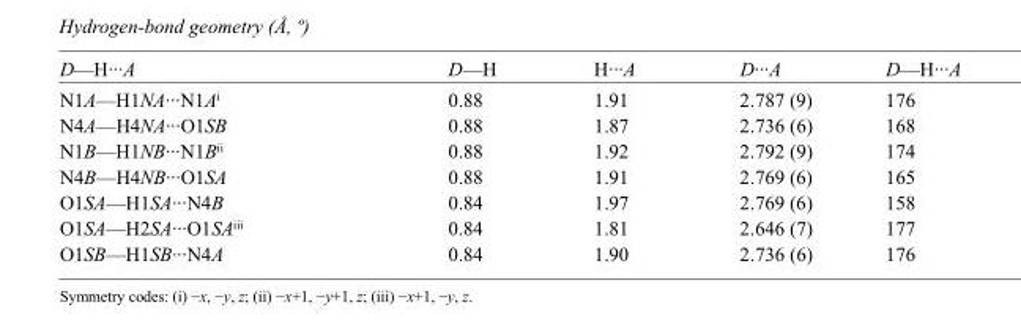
<table><tbody><tr><td>D—H···A</td><td>D—H</td><td>H···A</td><td>D···A</td><td>D—H···A</td></tr><tr><td>N1A—H1NA···N1A<sup>i</sup></td><td>0.88</td><td>1.91</td><td>2.787 (9)</td><td>176</td></tr><tr><td>N4A—H4NA···O1SB</td><td>0.88</td><td>1.87</td><td>2.736 (6)</td><td>168</td></tr><tr><td>N1B—H1NB···N1B<sup>ii</sup></td><td>0.88</td><td>1.92</td><td>2.792 (9)</td><td>174</td></tr><tr><td>N4B—H4NB···O1SA</td><td>0.88</td><td>1.91</td><td>2.769 (6)</td><td>165</td></tr><tr><td>O1SA—H1SA···N4B</td><td>0.84</td><td>1.97</td><td>2.769 (6)</td><td>158</td></tr><tr><td>O1SA—H2SA···O1SA<sup>iii</sup></td><td>0.84</td><td>1.81</td><td>2.646 (7)</td><td>177</td></tr><tr><td>O1SB—H1SB···N4A</td><td>0.84</td><td>1.90</td><td>2.736 (6)</td><td>176</td></tr></tbody></table>